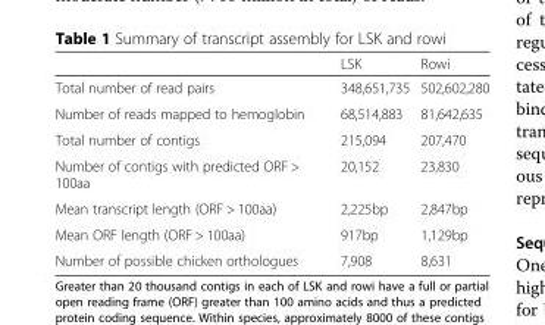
<table><thead><tr><td></td><td>LSK</td><td>Rowi</td></tr></thead><tbody><tr><td>Total number of read pairs</td><td>348,651,735</td><td>502,602,280</td></tr><tr><td>Number of reads mapped to hemoglobin</td><td>68,514,883</td><td>81,642,635</td></tr><tr><td>Total number of contigs</td><td>215,094</td><td>207,470</td></tr><tr><td>Number of contigs with predicted ORF &gt; 100aa</td><td>20,152</td><td>23,830</td></tr><tr><td>Mean transcript length (ORF &gt; 100aa)</td><td>2,225bp</td><td>2,847bp</td></tr><tr><td>Mean ORF length (ORF &gt; 100aa)</td><td>917bp</td><td>1,129bp</td></tr><tr><td>Number of possible chicken orthologues</td><td>7,908</td><td>8,631</td></tr></tbody></table>